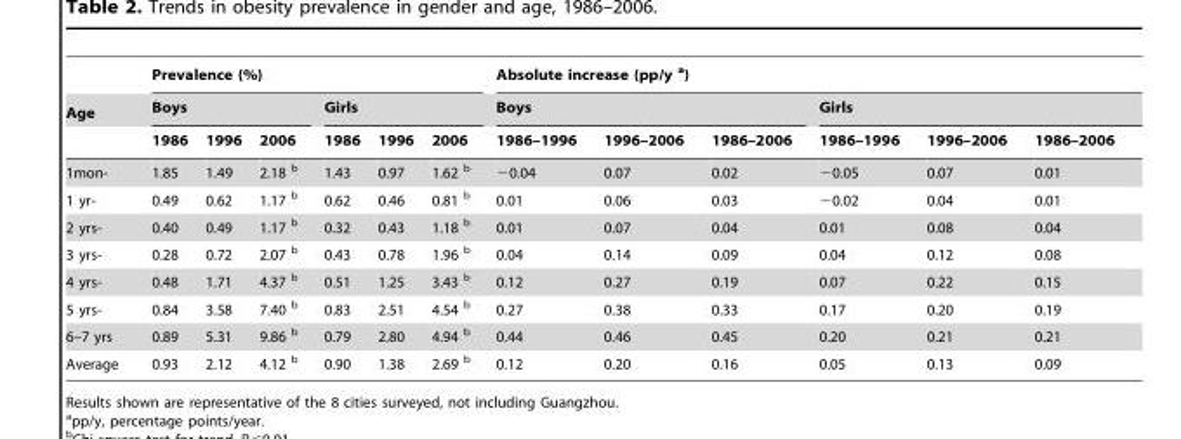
<table><thead><tr><td rowspan="3">Age</td><td colspan="6">Prevalence (%)</td><td colspan="6">Absolute increase (pp/y a)</td></tr><tr><td colspan="3">Boys</td><td colspan="3">Girls</td><td colspan="3">Boys</td><td colspan="3">Girls</td></tr><tr><td>1986</td><td>1996</td><td>2006</td><td>1986</td><td>1996</td><td>2006</td><td>1986–1996</td><td>1996–2006</td><td>1986–2006</td><td>1986–1996</td><td>1996–2006</td><td>1986–2006</td></tr></thead><tbody><tr><td>1mon-</td><td>1.85</td><td>1.49</td><td>2.18 b</td><td>1.43</td><td>0.97</td><td>1.62 b</td><td>−0.04</td><td>0.07</td><td>0.02</td><td>−0.05</td><td>0.07</td><td>0.01</td></tr><tr><td>1 yr-</td><td>0.49</td><td>0.62</td><td>1.17 b</td><td>0.62</td><td>0.46</td><td>0.81 b</td><td>0.01</td><td>0.06</td><td>0.03</td><td>−0.02</td><td>0.04</td><td>0.01</td></tr><tr><td>2 yrs-</td><td>0.40</td><td>0.49</td><td>1.17 b</td><td>0.32</td><td>0.43</td><td>1.18 b</td><td>0.01</td><td>0.07</td><td>0.04</td><td>0.01</td><td>0.08</td><td>0.04</td></tr><tr><td>3 yrs-</td><td>0.28</td><td>0.72</td><td>2.07 b</td><td>0.43</td><td>0.78</td><td>1.96 b</td><td>0.04</td><td>0.14</td><td>0.09</td><td>0.04</td><td>0.12</td><td>0.08</td></tr><tr><td>4 yrs-</td><td>0.48</td><td>1.71</td><td>4.37 b</td><td>0.51</td><td>1.25</td><td>3.43 b</td><td>0.12</td><td>0.27</td><td>0.19</td><td>0.07</td><td>0.22</td><td>0.15</td></tr><tr><td>5 yrs-</td><td>0.84</td><td>3.58</td><td>7.40 b</td><td>0.83</td><td>2.51</td><td>4.54 b</td><td>0.27</td><td>0.38</td><td>0.33</td><td>0.17</td><td>0.20</td><td>0.19</td></tr><tr><td>6–7 yrs</td><td>0.89</td><td>5.31</td><td>9.86 b</td><td>0.79</td><td>2.80</td><td>4.94 b</td><td>0.44</td><td>0.46</td><td>0.45</td><td>0.20</td><td>0.21</td><td>0.21</td></tr><tr><td>Average</td><td>0.93</td><td>2.12</td><td>4.12 b</td><td>0.90</td><td>1.38</td><td>2.69 b</td><td>0.12</td><td>0.20</td><td>0.16</td><td>0.05</td><td>0.13</td><td>0.09</td></tr></tbody></table>